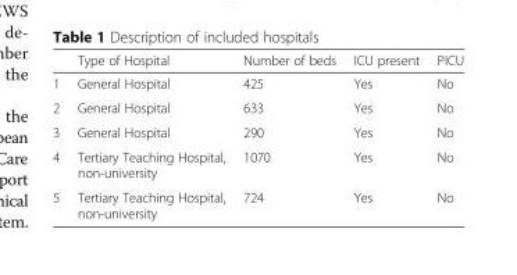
<table><thead><tr><td></td><td>Type of Hospital</td><td>Number of beds</td><td>ICU present</td><td>PICU</td></tr></thead><tbody><tr><td>1</td><td>General Hospital</td><td>425</td><td>Yes</td><td>No</td></tr><tr><td>2</td><td>General Hospital</td><td>633</td><td>Yes</td><td>No</td></tr><tr><td>3</td><td>General Hospital</td><td>290</td><td>Yes</td><td>No</td></tr><tr><td>4</td><td>Tertiary Teaching Hospital, non-university</td><td>1070</td><td>Yes</td><td>No</td></tr><tr><td>5</td><td>Tertiary Teaching Hospital, non-university</td><td>724</td><td>Yes</td><td>No</td></tr></tbody></table>